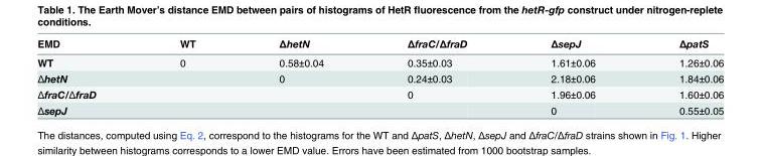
<table><thead><tr><td>EMD</td><td>WT</td><td>ΔhetN</td><td>ΔfraC/ΔfraD</td><td>ΔsepJ</td><td>ΔpatS</td></tr></thead><tbody><tr><td>WT</td><td>0</td><td>0.58±0.04</td><td>0.35±0.03</td><td>1.61±0.06</td><td>1.26±0.06</td></tr><tr><td>ΔhetN</td><td></td><td>0</td><td>0.24±0.03</td><td>2.18±0.06</td><td>1.84±0.06</td></tr><tr><td>ΔfraC/ΔfraD</td><td></td><td></td><td>0</td><td>1.96±0.06</td><td>1.60±0.06</td></tr><tr><td>ΔsepJ</td><td></td><td></td><td></td><td>0</td><td>0.55±0.05</td></tr></tbody></table>